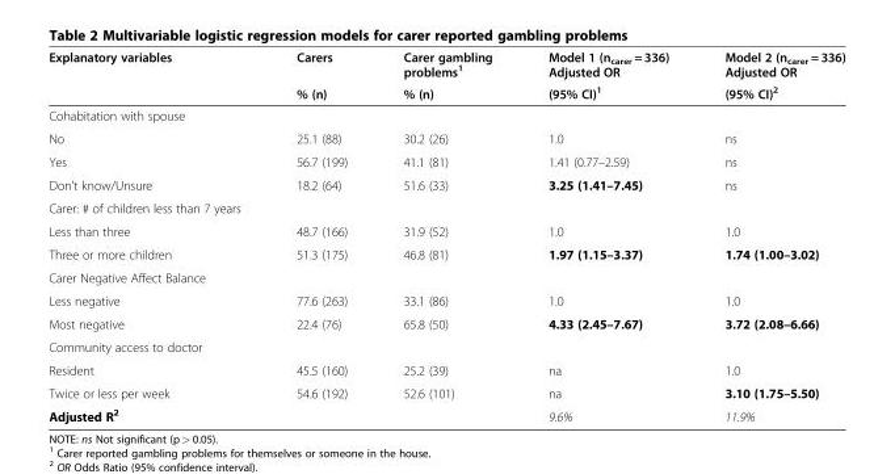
<table><thead><tr><td rowspan="2">Explanatory variables</td><td rowspan="2">Carers % (n)</td><td rowspan="2">Carer gambling problems<sup>1</sup> % (n)</td><td rowspan="2">Model 1 (n<sub>carer</sub> = 336) Adjusted OR (95% CI)<sup>1</sup></td><td rowspan="2">Model 2 (n<sub>carer</sub> = 336) Adjusted OR (95% CI)<sup>2</sup></td></tr><tr></tr></thead><tbody><tr><td colspan="5">Cohabitation with spouse</td></tr><tr><td>No</td><td>25.1 (88)</td><td>30.2 (26)</td><td>1.0</td><td>ns</td></tr><tr><td>Yes</td><td>56.7 (199)</td><td>41.1 (81)</td><td>1.41 (0.77–2.59)</td><td>ns</td></tr><tr><td>Don’t know/Unsure</td><td>18.2 (64)</td><td>51.6 (33)</td><td>3.25 (1.41–7.45)</td><td>ns</td></tr><tr><td colspan="5">Carer: # of children less than 7 years</td></tr><tr><td>Less than three</td><td>48.7 (166)</td><td>31.9 (52)</td><td>1.0</td><td>1.0</td></tr><tr><td>Three or more children</td><td>51.3 (175)</td><td>46.8 (81)</td><td>1.97 (1.15–3.37)</td><td>1.74 (1.00–3.02)</td></tr><tr><td colspan="5">Carer Negative Affect Balance</td></tr><tr><td>Less negative</td><td>77.6 (263)</td><td>33.1 (86)</td><td>1.0</td><td>1.0</td></tr><tr><td>Most negative</td><td>22.4 (76)</td><td>65.8 (50)</td><td>4.33 (2.45–7.67)</td><td>3.72 (2.08–6.66)</td></tr><tr><td colspan="5">Community access to doctor</td></tr><tr><td>Resident</td><td>45.5 (160)</td><td>25.2 (39)</td><td>na</td><td>1.0</td></tr><tr><td>Twice or less per week</td><td>54.6 (192)</td><td>52.6 (101)</td><td>na</td><td>3.10 (1.75–5.50)</td></tr><tr><td>Adjusted R<sup>2</sup></td><td></td><td></td><td>9.6%</td><td>11.9%</td></tr></tbody></table>